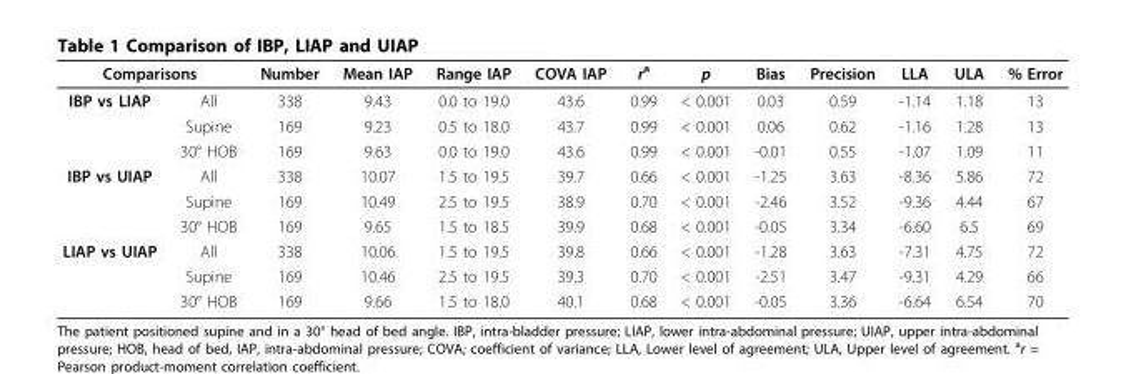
<table><thead><tr><td colspan="2">Comparisons</td><td rowspan="2">Number 338</td><td rowspan="2">Mean IAP 9.43</td><td rowspan="2">Range IAP 0.0 to 19.0</td><td rowspan="2">COVA IAP 43.6</td><td rowspan="2">r<sup>a</sup> 0.99</td><td rowspan="2">p &lt; 0.001</td><td rowspan="2">Bias 0.03</td><td rowspan="2">Precision 0.59</td><td rowspan="2">LLA -1.14</td><td rowspan="2">ULA 1.18</td><td rowspan="2">% Error 13</td></tr><tr><td>IBP vs LIAP</td><td>All</td></tr></thead><tbody><tr><td></td><td>Supine</td><td>169</td><td>9.23</td><td>0.5 to 18.0</td><td>43.7</td><td>0.99</td><td>&lt; 0.001</td><td>0.06</td><td>0.62</td><td>-1.16</td><td>1.28</td><td>13</td></tr><tr><td></td><td>30° HOB</td><td>169</td><td>9.63</td><td>0.0 to 19.0</td><td>43.6</td><td>0.99</td><td>&lt; 0.001</td><td>-0.01</td><td>0.55</td><td>-1.07</td><td>1.09</td><td>11</td></tr><tr><td rowspan="3">IBP vs UIAP</td><td>All</td><td>338</td><td>10.07</td><td>1.5 to 19.5</td><td>39.7</td><td>0.66</td><td>&lt; 0.001</td><td>-1.25</td><td>3.63</td><td>-8.36</td><td>5.86</td><td>72</td></tr><tr><td>Supine</td><td>169</td><td>10.49</td><td>2.5 to 19.5</td><td>38.9</td><td>0.70</td><td>&lt; 0.001</td><td>-2.46</td><td>3.52</td><td>-9.36</td><td>4.44</td><td>67</td></tr><tr><td>30° HOB</td><td>169</td><td>9.65</td><td>1.5 to 18.5</td><td>39.9</td><td>0.68</td><td>&lt; 0.001</td><td>-0.05</td><td>3.34</td><td>-6.60</td><td>6.5</td><td>69</td></tr><tr><td rowspan="3">LIAP vs UIAP</td><td>All</td><td>338</td><td>10.06</td><td>1.5 to 19.5</td><td>39.8</td><td>0.66</td><td>&lt; 0.001</td><td>-1.28</td><td>3.63</td><td>-7.31</td><td>4.75</td><td>72</td></tr><tr><td>Supine</td><td>169</td><td>10.46</td><td>2.5 to 19.5</td><td>39.3</td><td>0.70</td><td>&lt; 0.001</td><td>-2.51</td><td>3.47</td><td>-9.31</td><td>4.29</td><td>66</td></tr><tr><td>30° HOB</td><td>169</td><td>9.66</td><td>1.5 to 18.0</td><td>40.1</td><td>0.68</td><td>&lt; 0.001</td><td>-0.05</td><td>3.36</td><td>-6.64</td><td>6.54</td><td>70</td></tr></tbody></table>